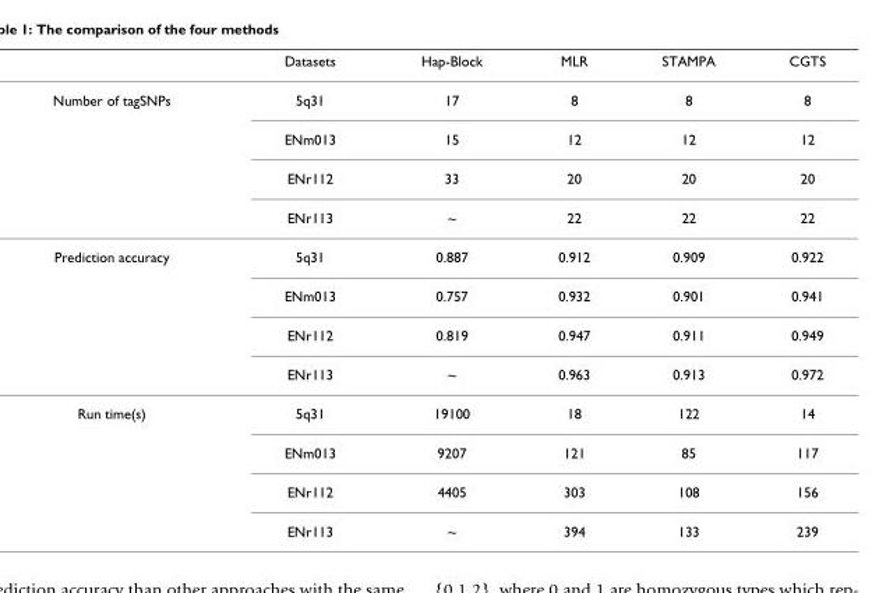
<table><thead><tr><td></td><td>Datasets</td><td>Hap-Block</td><td>MLR</td><td>STAMPA</td><td>CGTS</td></tr></thead><tbody><tr><td rowspan="4">Number of tagSNPs</td><td>5q31</td><td>17</td><td>8</td><td>8</td><td>8</td></tr><tr><td>ENm013</td><td>15</td><td>12</td><td>12</td><td>12</td></tr><tr><td>ENr112</td><td>33</td><td>20</td><td>20</td><td>20</td></tr><tr><td>ENr113</td><td>~</td><td>22</td><td>22</td><td>22</td></tr><tr><td rowspan="4">Prediction accuracy</td><td>5q31</td><td>0.887</td><td>0.912</td><td>0.909</td><td>0.922</td></tr><tr><td>ENm013</td><td>0.757</td><td>0.932</td><td>0.901</td><td>0.941</td></tr><tr><td>ENr112</td><td>0.819</td><td>0.947</td><td>0.911</td><td>0.949</td></tr><tr><td>ENr113</td><td>~</td><td>0.963</td><td>0.913</td><td>0.972</td></tr><tr><td rowspan="4">Run time(s)</td><td>5q31</td><td>19100</td><td>18</td><td>122</td><td>14</td></tr><tr><td>ENm013</td><td>9207</td><td>121</td><td>85</td><td>117</td></tr><tr><td>ENr112</td><td>4405</td><td>303</td><td>108</td><td>156</td></tr><tr><td>ENr113</td><td>~</td><td>394</td><td>133</td><td>239</td></tr></tbody></table>